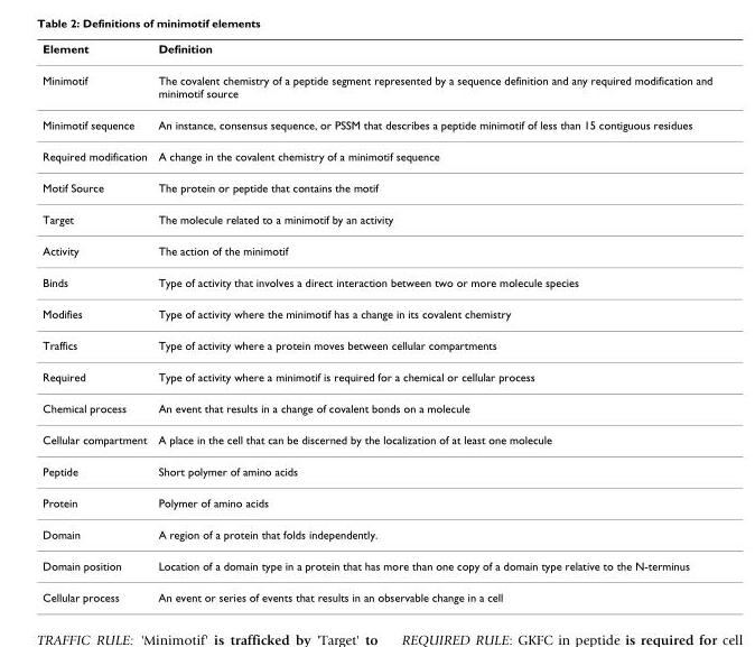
<table><thead><tr><td>Element</td><td>Definition</td></tr></thead><tbody><tr><td>Minimotif</td><td>The covalent chemistry of a peptide segment represented by a sequence definition and any required modification and minimotif source</td></tr><tr><td>Minimotif sequence</td><td>An instance, consensus sequence, or PSSM that describes a peptide minimotif of less than 15 contiguous residues</td></tr><tr><td>Required modification</td><td>A change in the covalent chemistry of a minimotif sequence</td></tr><tr><td>Motif Source</td><td>The protein or peptide that contains the motif</td></tr><tr><td>Target</td><td>The molecule related to a minimotif by an activity</td></tr><tr><td>Activity</td><td>The action of the minimotif</td></tr><tr><td>Binds</td><td>Type of activity that involves a direct interaction between two or more molecule species</td></tr><tr><td>Modifies</td><td>Type of activity where the minimotif has a change in its covalent chemistry</td></tr><tr><td>Traffics</td><td>Type of activity where a protein moves between cellular compartments</td></tr><tr><td>Required</td><td>Type of activity where a minimotif is required for a chemical or cellular process</td></tr><tr><td>Chemical process</td><td>An event that results in a change of covalent bonds on a molecule</td></tr><tr><td>Cellular compartment</td><td>A place in the cell that can be discerned by the localization of at least one molecule</td></tr><tr><td>Peptide</td><td>Short polymer of amino acids</td></tr><tr><td>Protein</td><td>Polymer of amino acids</td></tr><tr><td>Domain</td><td>A region of a protein that folds independently.</td></tr><tr><td>Domain position</td><td>Location of a domain type in a protein that has more than one copy of a domain type relative to the N-terminus</td></tr><tr><td>Cellular process</td><td>An event or series of events that results in an observable change in a cell</td></tr></tbody></table>